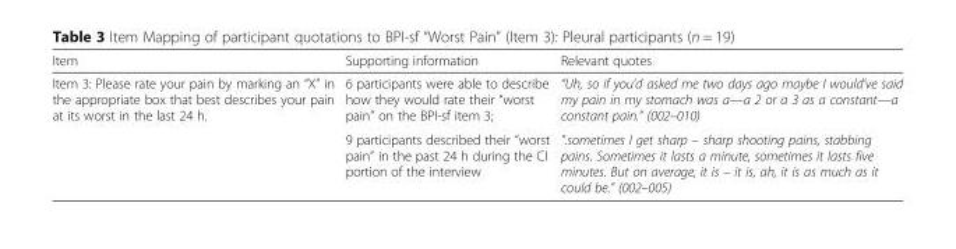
<table><thead><tr><td>Item</td><td>Supporting information</td><td>Relevant quotes</td></tr></thead><tbody><tr><td rowspan="2">Item 3: Please rate your pain by marking an “X” in the appropriate box that best describes your pain at its worst in the last 24 h.</td><td>6 participants were able to describe how they would rate their “worst pain” on the BPI-sf item 3;</td><td>“Uh, so if you’d asked me two days ago maybe I would’ve said my pain in my stomach was a—a 2 or a 3 as a constant—a constant pain.” (002–010)</td></tr><tr><td>9 participants described their “worst pain” in the past 24 h during the CI portion of the interview</td><td>”.sometimes I get sharp – sharp shooting pains, stabbing pains. Sometimes it lasts a minute, sometimes it lasts five minutes. But on average, it is – it is, ah, it is as much as it could be.” (002–005)</td></tr></tbody></table>